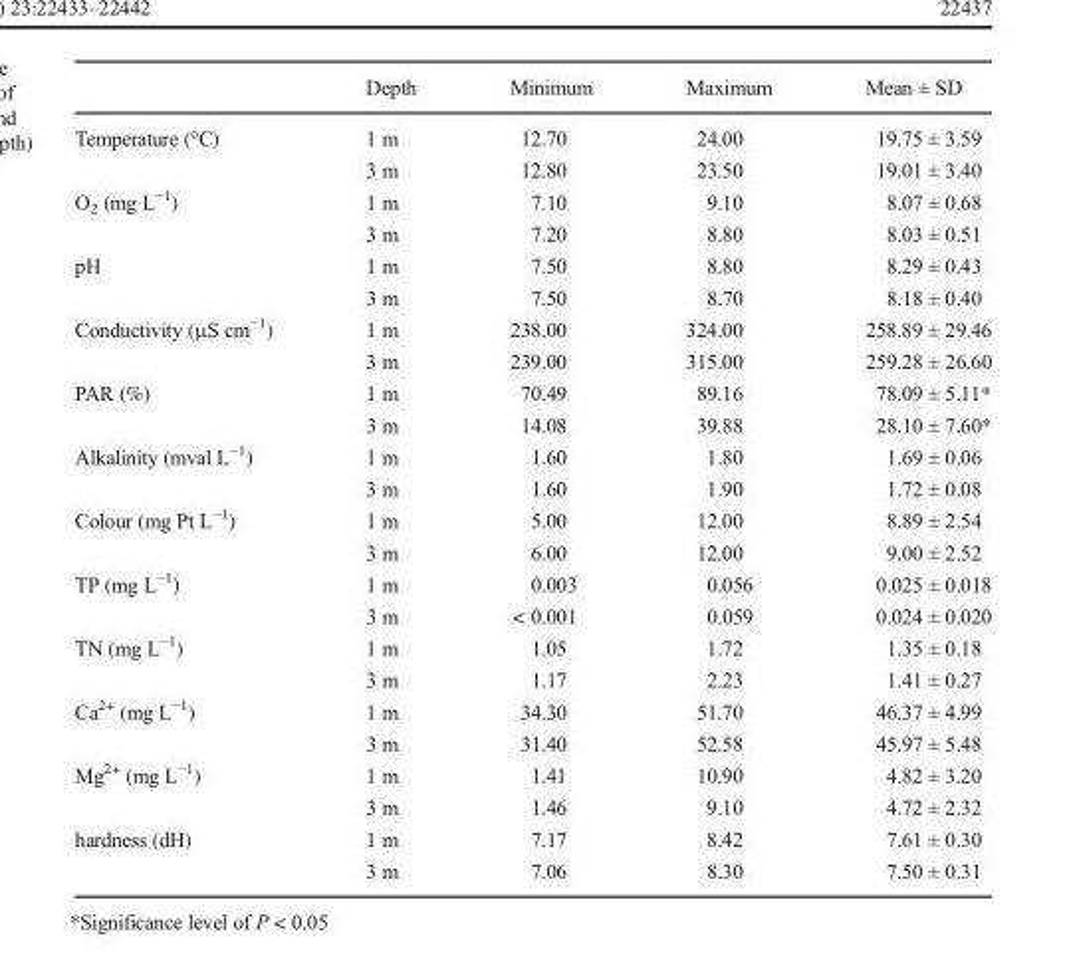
<table><thead><tr><td></td><td>Depth</td><td>Minimum</td><td>Maximum</td><td>Mean ± SD</td></tr></thead><tbody><tr><td rowspan="2">Temperature (°C)</td><td>1 m</td><td>12.70</td><td>24.00</td><td>19.75 ± 3.59</td></tr><tr><td>3 m</td><td>12.80</td><td>23.50</td><td>19.01 ± 3.40</td></tr><tr><td rowspan="2">O<sub>2</sub> (mg L<sup>−1</sup>)</td><td>1 m</td><td>7.10</td><td>9.10</td><td>8.07 ± 0.68</td></tr><tr><td>3 m</td><td>7.20</td><td>8.80</td><td>8.03 ± 0.51</td></tr><tr><td rowspan="2">pH</td><td>1 m</td><td>7.50</td><td>8.80</td><td>8.29 ± 0.43</td></tr><tr><td>3 m</td><td>7.50</td><td>8.70</td><td>8.18 ± 0.40</td></tr><tr><td rowspan="2">Conductivity (μS cm<sup>−1</sup>)</td><td>1 m</td><td>238.00</td><td>324.00</td><td>258.89 ± 29.46</td></tr><tr><td>3 m</td><td>239.00</td><td>315.00</td><td>259.28 ± 26.60</td></tr><tr><td rowspan="2">PAR (%)</td><td>1 m</td><td>70.49</td><td>89.16</td><td>78.09 ± 5.11*</td></tr><tr><td>3 m</td><td>14.08</td><td>39.88</td><td>28.10 ± 7.60*</td></tr><tr><td rowspan="2">Alkalinity (mval L<sup>−1</sup>)</td><td>1 m</td><td>1.60</td><td>1.80</td><td>1.69 ± 0.06</td></tr><tr><td>3 m</td><td>1.60</td><td>1.90</td><td>1.72 ± 0.08</td></tr><tr><td rowspan="2">Colour (mg Pt L<sup>−1</sup>)</td><td>1 m</td><td>5.00</td><td>12.00</td><td>8.89 ± 2.54</td></tr><tr><td>3 m</td><td>6.00</td><td>12.00</td><td>9.00 ± 2.52</td></tr><tr><td rowspan="2">TP (mg L<sup>−1</sup>)</td><td>1 m</td><td>0.003</td><td>0.056</td><td>0.025 ± 0.018</td></tr><tr><td>3 m</td><td>&lt; 0.001</td><td>0.059</td><td>0.024 ± 0.020</td></tr><tr><td rowspan="2">TN (mg L<sup>−1</sup>)</td><td>1 m</td><td>1.05</td><td>1.72</td><td>1.35 ± 0.18</td></tr><tr><td>3 m</td><td>1.17</td><td>2.23</td><td>1.41 ± 0.27</td></tr><tr><td rowspan="2">Ca<sup>2+</sup> (mg L<sup>−1</sup>)</td><td>1 m</td><td>34.30</td><td>51.70</td><td>46.37 ± 4.99</td></tr><tr><td>3 m</td><td>31.40</td><td>52.58</td><td>45.97 ± 5.48</td></tr><tr><td rowspan="2">Mg<sup>2+</sup> (mg L<sup>−1</sup>)</td><td>1 m</td><td>1.41</td><td>10.90</td><td>4.82 ± 3.20</td></tr><tr><td>3 m</td><td>1.46</td><td>9.10</td><td>4.72 ± 2.32</td></tr><tr><td rowspan="2">hardness (dH)</td><td>1 m</td><td>7.17</td><td>8.42</td><td>7.61 ± 0.30</td></tr><tr><td>3 m</td><td>7.06</td><td>8.30</td><td>7.50 ± 0.31</td></tr></tbody></table>